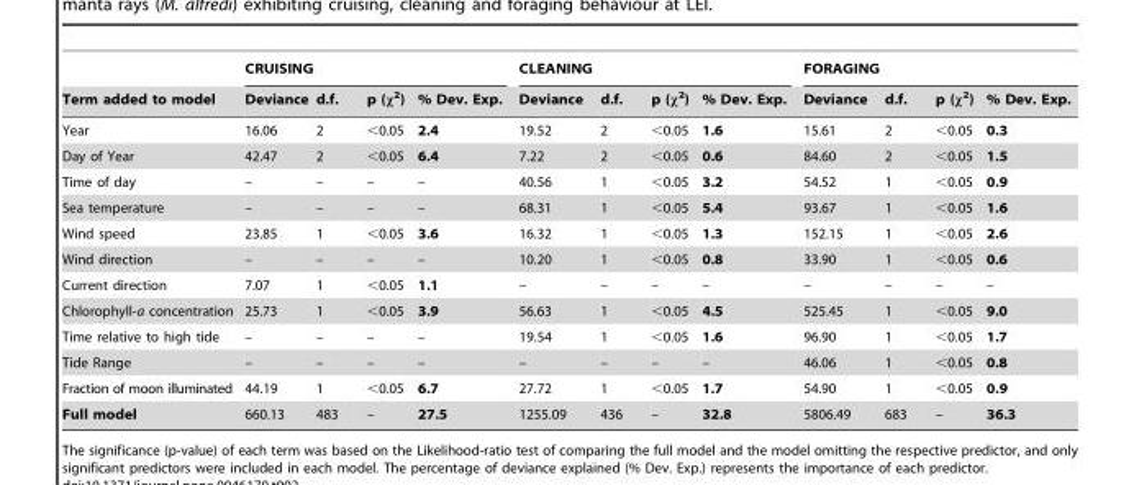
<table><thead><tr><td rowspan="2">Term added to model</td><td colspan="4">CRUISING</td><td colspan="4">CLEANING</td><td colspan="4">FORAGING</td></tr><tr><td>Deviance</td><td>d.f.</td><td>p (χ<sup>2</sup>)</td><td>% Dev. Exp.</td><td>Deviance</td><td>d.f.</td><td>p (χ<sup>2</sup>)</td><td>% Dev. Exp.</td><td>Deviance</td><td>d.f.</td><td>p (χ<sup>2</sup>)</td><td>% Dev. Exp.</td></tr></thead><tbody><tr><td>Year</td><td>16.06</td><td>2</td><td>&lt;0.05</td><td>2.4</td><td>19.52</td><td>2</td><td>&lt;0.05</td><td>1.6</td><td>15.61</td><td>2</td><td>&lt;0.05</td><td>0.3</td></tr><tr><td>Day of Year</td><td>42.47</td><td>2</td><td>&lt;0.05</td><td>6.4</td><td>7.22</td><td>2</td><td>&lt;0.05</td><td>0.6</td><td>84.60</td><td>2</td><td>&lt;0.05</td><td>1.5</td></tr><tr><td>Time of day</td><td>–</td><td>–</td><td>–</td><td>–</td><td>40.56</td><td>1</td><td>&lt;0.05</td><td>3.2</td><td>54.52</td><td>1</td><td>&lt;0.05</td><td>0.9</td></tr><tr><td>Sea temperature</td><td>–</td><td>–</td><td>–</td><td>–</td><td>68.31</td><td>1</td><td>&lt;0.05</td><td>5.4</td><td>93.67</td><td>1</td><td>&lt;0.05</td><td>1.6</td></tr><tr><td>Wind speed</td><td>23.85</td><td>1</td><td>&lt;0.05</td><td>3.6</td><td>16.32</td><td>1</td><td>&lt;0.05</td><td>1.3</td><td>152.15</td><td>1</td><td>&lt;0.05</td><td>2.6</td></tr><tr><td>Wind direction</td><td>–</td><td>–</td><td>–</td><td>–</td><td>10.20</td><td>1</td><td>&lt;0.05</td><td>0.8</td><td>33.90</td><td>1</td><td>&lt;0.05</td><td>0.6</td></tr><tr><td>Current direction</td><td>7.07</td><td>1</td><td>&lt;0.05</td><td>1.1</td><td>–</td><td>–</td><td>–</td><td>–</td><td>–</td><td>–</td><td>–</td><td>–</td></tr><tr><td>Chlorophyll-a concentration</td><td>25.73</td><td>1</td><td>&lt;0.05</td><td>3.9</td><td>56.63</td><td>1</td><td>&lt;0.05</td><td>4.5</td><td>525.45</td><td>1</td><td>&lt;0.05</td><td>9.0</td></tr><tr><td>Time relative to high tide</td><td>–</td><td>–</td><td>–</td><td>–</td><td>19.54</td><td>1</td><td>&lt;0.05</td><td>1.6</td><td>96.90</td><td>1</td><td>&lt;0.05</td><td>1.7</td></tr><tr><td>Tide Range</td><td>–</td><td>–</td><td>–</td><td>–</td><td>–</td><td>–</td><td>–</td><td>–</td><td>46.06</td><td>1</td><td>&lt;0.05</td><td>0.8</td></tr><tr><td>Fraction of moon illuminated</td><td>44.19</td><td>1</td><td>&lt;0.05</td><td>6.7</td><td>27.72</td><td>1</td><td>&lt;0.05</td><td>1.7</td><td>54.90</td><td>1</td><td>&lt;0.05</td><td>0.9</td></tr><tr><td>Full model</td><td>660.13</td><td>483</td><td>–</td><td>27.5</td><td>1255.09</td><td>436</td><td>–</td><td>32.8</td><td>5806.49</td><td>683</td><td>–</td><td>36.3</td></tr></tbody></table>